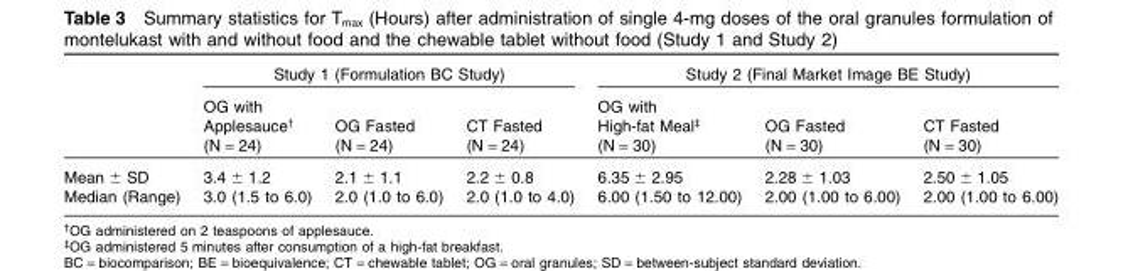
<table><thead><tr><td rowspan="2"></td><td colspan="3">Study 1 (Formulation BC Study)</td><td colspan="3">Study 2 (Final Market Image BE Study)</td></tr><tr><td>OG with Applesauce† (N = 24)</td><td>OG Fasted (N = 24)</td><td>CT Fasted (N = 24)</td><td>OG with High-fat Meal‡ (N = 30)</td><td>OG Fasted (N = 30)</td><td>CT Fasted (N = 30)</td></tr></thead><tbody><tr><td>Mean ± SD</td><td>3.4 ± 1.2</td><td>2.1 ± 1.1</td><td>2.2 ± 0.8</td><td>6.35 ± 2.95</td><td>2.28 ± 1.03</td><td>2.50 ± 1.05</td></tr><tr><td>Median (Range)</td><td>3.0 (1.5 to 6.0)</td><td>2.0 (1.0 to 6.0)</td><td>2.0 (1.0 to 4.0)</td><td>6.00 (1.50 to 12.00)</td><td>2.00 (1.00 to 6.00)</td><td>2.00 (1.00 to 6.00)</td></tr></tbody></table>